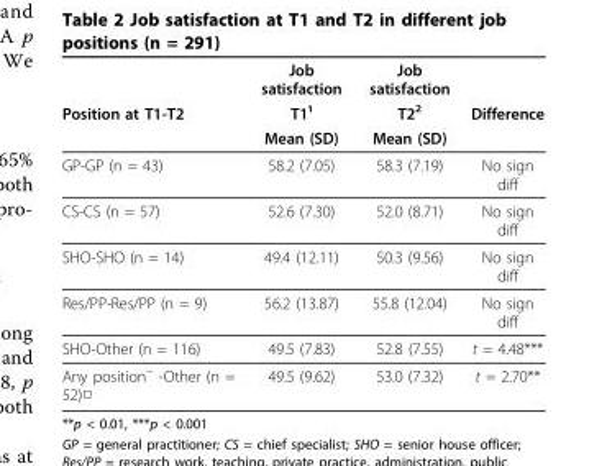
<table><thead><tr><td rowspan="3">Position at T1-T2</td><td rowspan="3">Job satisfaction T1¹ Mean (SD)</td><td rowspan="3">Job satisfaction T2<sup>2</sup> Mean (SD)</td><td rowspan="3">Difference</td></tr><tr></tr><tr></tr></thead><tbody><tr><td>GP-GP (n = 43)</td><td>58.2 (7.05)</td><td>58.3 (7.19)</td><td>No sign diff</td></tr><tr><td>CS-CS (n = 57)</td><td>52.6 (7.30)</td><td>52.0 (8.71)</td><td>No sign diff</td></tr><tr><td>SHO-SHO (n = 14)</td><td>49.4 (12.11)</td><td>50.3 (9.56)</td><td>No sign diff</td></tr><tr><td>Res/PP-Res/PP (n = 9)</td><td>56.2 (13.87)</td><td>55.8 (12.04)</td><td>No sign diff</td></tr><tr><td>SHO-Other (n = 116)</td><td>49.5 (7.83)</td><td>52.8 (7.55)</td><td>t = 4.48***</td></tr><tr><td>Any position<sup>~</sup> -Other (n = 52)□</td><td>49.5 (9.62)</td><td>53.0 (7.32)</td><td>t = 2.70**</td></tr></tbody></table>